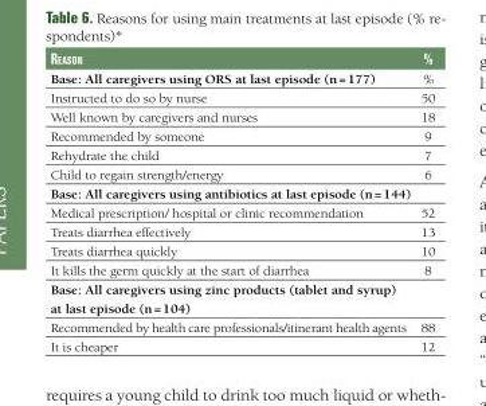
<table><thead><tr><td>reaSon</td><td>%</td></tr></thead><tbody><tr><td>Base: All caregivers using ORS at last episode (n = 177)</td><td>%</td></tr><tr><td>Instructed to do so by nurse</td><td>50</td></tr><tr><td>Well known by caregivers and nurses</td><td>18</td></tr><tr><td>Recommended by someone</td><td>9</td></tr><tr><td>Rehydrate the child</td><td>7</td></tr><tr><td>Child to regain strength/energy</td><td>6</td></tr><tr><td colspan="2">Base: All caregivers using antibiotics at last episode (n = 144)</td></tr><tr><td>Medical prescription/ hospital or clinic recommendation</td><td>52</td></tr><tr><td>Treats diarrhea effectively</td><td>13</td></tr><tr><td>Treats diarrhea quickly</td><td>10</td></tr><tr><td>It kills the germ quickly at the start of diarrhea</td><td>8</td></tr><tr><td colspan="2">Base: All caregivers using zinc products (tablet and syrup) at last episode (n = 104)</td></tr><tr><td>Recommended by health care professionals/itinerant health agents</td><td>88</td></tr><tr><td>It is cheaper</td><td>12</td></tr></tbody></table>